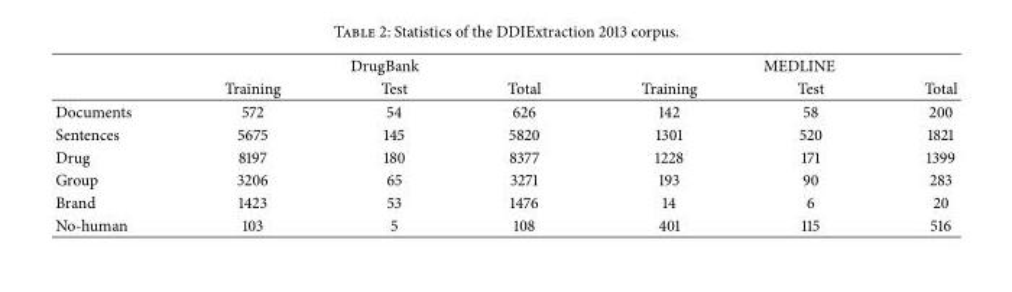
<table><thead><tr><td rowspan="2"></td><td colspan="3">DrugBank</td><td colspan="3">MEDLINE</td></tr><tr><td>Training</td><td>Test</td><td>Total</td><td>Training</td><td>Test</td><td>Total</td></tr></thead><tbody><tr><td>Documents</td><td>572</td><td>54</td><td>626</td><td>142</td><td>58</td><td>200</td></tr><tr><td>Sentences</td><td>5675</td><td>145</td><td>5820</td><td>1301</td><td>520</td><td>1821</td></tr><tr><td>Drug</td><td>8197</td><td>180</td><td>8377</td><td>1228</td><td>171</td><td>1399</td></tr><tr><td>Group</td><td>3206</td><td>65</td><td>3271</td><td>193</td><td>90</td><td>283</td></tr><tr><td>Brand</td><td>1423</td><td>53</td><td>1476</td><td>14</td><td>6</td><td>20</td></tr><tr><td>No-human</td><td>103</td><td>5</td><td>108</td><td>401</td><td>115</td><td>516</td></tr></tbody></table>